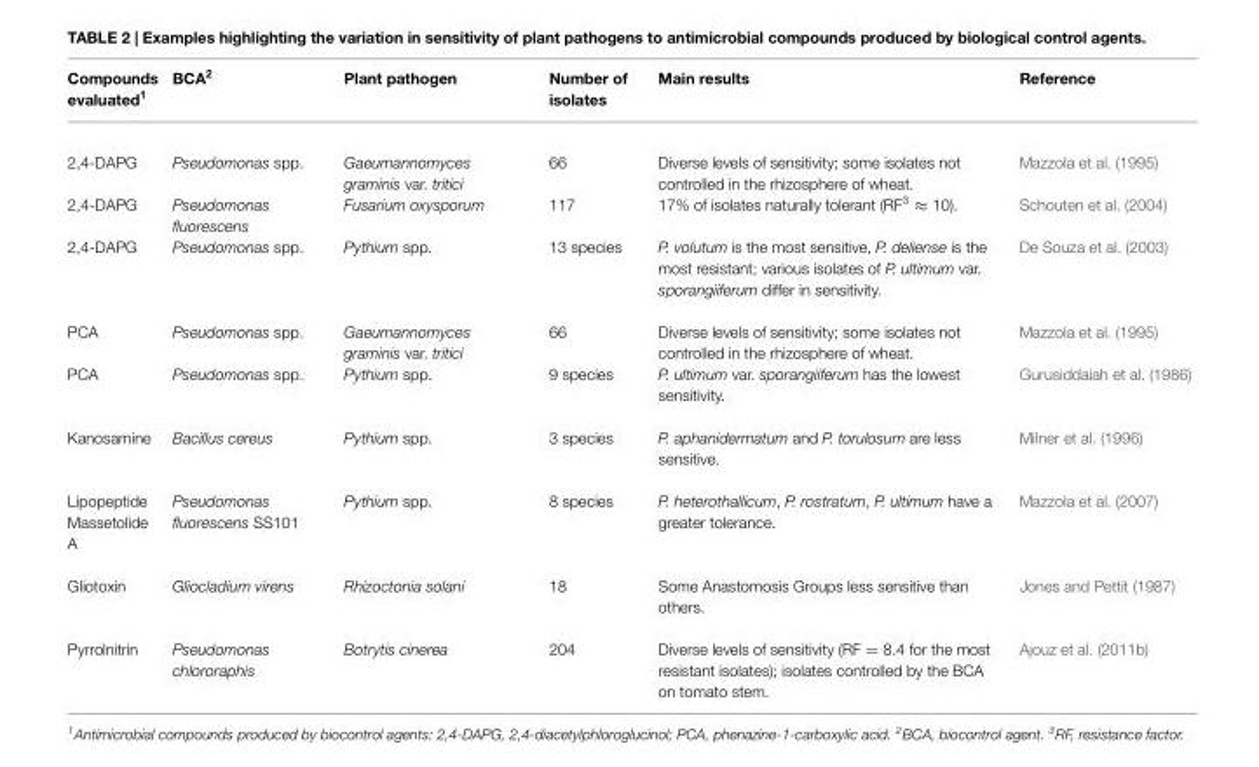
<table><thead><tr><td>Compounds evaluated<sup>1</sup></td><td>BCA<sup>2</sup></td><td>Plant pathogen</td><td>Number of isolates</td><td>Main results</td><td>Reference</td></tr></thead><tbody><tr><td>2,4-DAPG</td><td>Pseudomonas spp.</td><td>Gaeumannomyces graminis var. tritici</td><td>66</td><td>Diverse levels of sensitivity; some isolates not controlled in the rhizosphere of wheat.</td><td>Mazzola et al. (1995)</td></tr><tr><td>2,4-DAPG</td><td>Pseudomonas fluorescens</td><td>Fusarium oxysporum</td><td>117</td><td>17% of isolates naturally tolerant (RF<sup>3</sup> ≈ 10).</td><td>Schouten et al. (2004)</td></tr><tr><td>2,4-DAPG</td><td>Pseudomonas spp.</td><td>Pythium spp.</td><td>13 species</td><td>P. volutum is the most sensitive, P. deliense is the most resistant; various isolates of P. ultimum var. sporangiiferum differ in sensitivity.</td><td>De Souza et al. (2003)</td></tr><tr><td>PCA</td><td>Pseudomonas spp.</td><td>Gaeumannomyces graminis var. tritici</td><td>66</td><td>Diverse levels of sensitivity; some isolates not controlled in the rhizosphere of wheat.</td><td>Mazzola et al. (1995)</td></tr><tr><td>PCA</td><td>Pseudomonas spp.</td><td>Pythium spp.</td><td>9 species</td><td>P. ultimum var. sporangiiferum has the lowest sensitivity.</td><td>Gurusiddaiah et al. (1986)</td></tr><tr><td>Kanosamine</td><td>Bacillus cereus</td><td>Pythium spp.</td><td>3 species</td><td>P. aphanidermatum and P. torulosum are less sensitive.</td><td>Milner et al. (1996)</td></tr><tr><td>Lipopeptide Massetolide A</td><td>Pseudomonas fluorescens SS101</td><td>Pythium spp.</td><td>8 species</td><td>P. heterothallicum, P. rostratum, P. ultimum have a greater tolerance.</td><td>Mazzola et al. (2007)</td></tr><tr><td>Gliotoxin</td><td>Gliocladium virens</td><td>Rhizoctonia solani</td><td>18</td><td>Some Anastomosis Groups less sensitive than others.</td><td>Jones and Pettit (1987)</td></tr><tr><td>Pyrrolnitrin</td><td>Pseudomonas chlororaphis</td><td>Botrytis cinerea</td><td>204</td><td>Diverse levels of sensitivity (RF = 8.4 for the most resistant isolates); isolates controlled by the BCA on tomato stem.</td><td>Ajouz et al. (2011b)</td></tr></tbody></table>